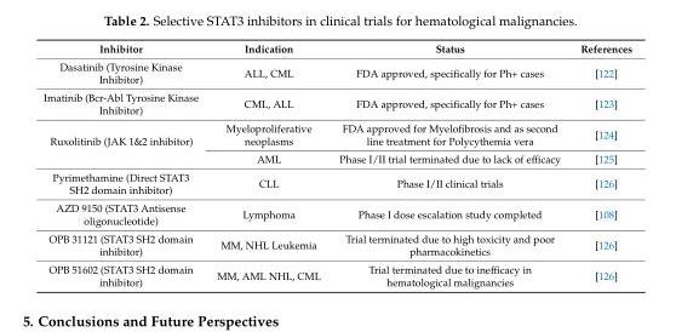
<table><thead><tr><td>Inhibitor</td><td>Indication</td><td>Status</td><td>References</td></tr></thead><tbody><tr><td>Dasatinib (Tyrosine Kinase Inhibitor)</td><td>ALL, CML</td><td>FDA approved, specifically for Ph+ cases</td><td>[122]</td></tr><tr><td>Imatinib (Bcr-Abl Tyrosine Kinase Inhibitor)</td><td>CML, ALL</td><td>FDA approved, specifically for Ph+ cases</td><td>[123]</td></tr><tr><td rowspan="2">Ruxolitinib (JAK 1&amp;2 inhibitor)</td><td>Myeloproliferative neoplasms</td><td>FDA approved for Myelofibrosis and as second line treatment for Polycythemia vera</td><td>[124]</td></tr><tr><td>AML</td><td>Phase I/II trial terminated due to lack of efficacy</td><td>[125]</td></tr><tr><td>Pyrimethamine (Direct STAT3 SH2 domain inhibitor)</td><td>CLL</td><td>Phase I/II clinical trials</td><td>[126]</td></tr><tr><td>AZD 9150 (STAT3 Antisense oligonucleotide)</td><td>Lymphoma</td><td>Phase I dose escalation study completed</td><td>[108]</td></tr><tr><td>OPB 31121 (STAT3 SH2 domain inhibitor)</td><td>MM, NHL Leukemia</td><td>Trial terminated due to high toxicity and poor pharmacokinetics</td><td>[126]</td></tr><tr><td>OPB 51602 (STAT3 SH2 domain inhibitor)</td><td>MM, AML NHL, CML</td><td>Trial terminated due to inefficacy in hematological malignancies</td><td>[126]</td></tr></tbody></table>